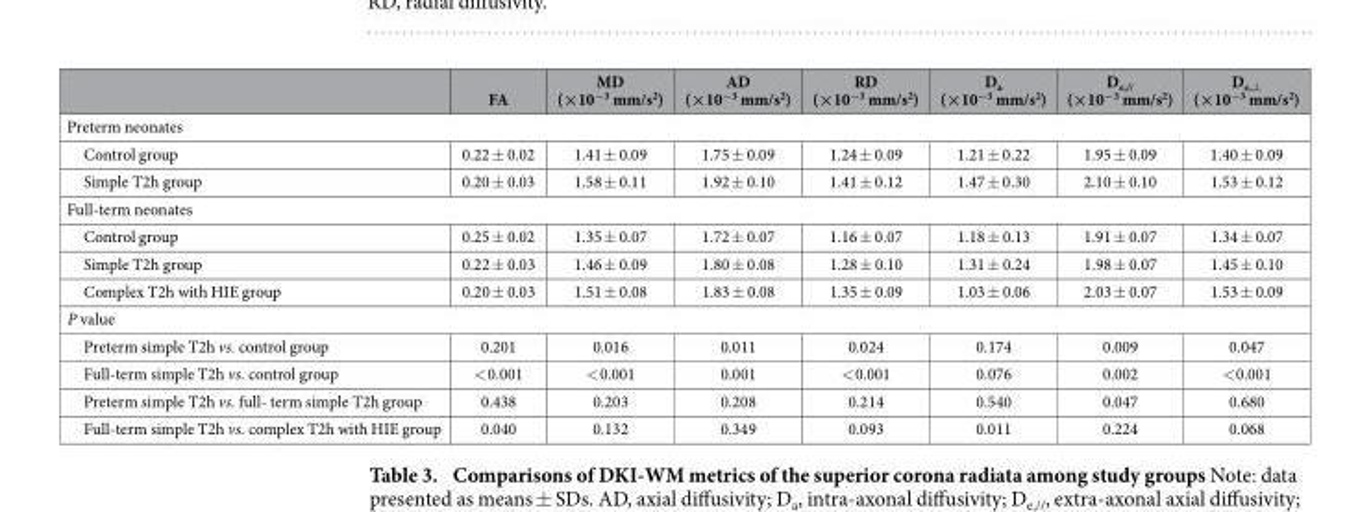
<table><thead><tr><td></td><td>FA</td><td>MD (×10<sup>−3</sup> mm/s<sup>2</sup>)</td><td>AD (×10<sup>−3</sup> mm/s<sup>2</sup>)</td><td>RD (×10<sup>−3</sup> mm/s<sup>2</sup>)</td><td>D<sub>a</sub> (×10<sup>−3</sup> mm/s<sup>2</sup>)</td><td>D<sub>e,//</sub> (×10<sup>−3</sup> mm/s<sup>2</sup>)</td><td>D<sub>e,⊥</sub> (×10<sup>−3</sup> mm/s<sup>2</sup>)</td></tr></thead><tbody><tr><td colspan="8">Preterm neonates</td></tr><tr><td>Control group</td><td>0.22 ± 0.02</td><td>1.41 ± 0.09</td><td>1.75 ± 0.09</td><td>1.24 ± 0.09</td><td>1.21 ± 0.22</td><td>1.95 ± 0.09</td><td>1.40 ± 0.09</td></tr><tr><td>Simple T2h group</td><td>0.20 ± 0.03</td><td>1.58 ± 0.11</td><td>1.92 ± 0.10</td><td>1.41 ± 0.12</td><td>1.47 ± 0.30</td><td>2.10 ± 0.10</td><td>1.53 ± 0.12</td></tr><tr><td colspan="8">Full-term neonates</td></tr><tr><td>Control group</td><td>0.25 ± 0.02</td><td>1.35 ± 0.07</td><td>1.72 ± 0.07</td><td>1.16 ± 0.07</td><td>1.18 ± 0.13</td><td>1.91 ± 0.07</td><td>1.34 ± 0.07</td></tr><tr><td>Simple T2h group</td><td>0.22 ± 0.03</td><td>1.46 ± 0.09</td><td>1.80 ± 0.08</td><td>1.28 ± 0.10</td><td>1.31 ± 0.24</td><td>1.98 ± 0.07</td><td>1.45 ± 0.10</td></tr><tr><td>Complex T2h with HIE group</td><td>0.20 ± 0.03</td><td>1.51 ± 0.08</td><td>1.83 ± 0.08</td><td>1.35 ± 0.09</td><td>1.03 ± 0.06</td><td>2.03 ± 0.07</td><td>1.53 ± 0.09</td></tr><tr><td colspan="8">P value</td></tr><tr><td>Preterm simple T2h vs. control group</td><td>0.201</td><td>0.016</td><td>0.011</td><td>0.024</td><td>0.174</td><td>0.009</td><td>0.047</td></tr><tr><td>Full-term simple T2h vs. control group</td><td>&lt; 0.001</td><td>&lt; 0.001</td><td>0.001</td><td>&lt; 0.001</td><td>0.076</td><td>0.002</td><td>&lt; 0.001</td></tr><tr><td>Preterm simple T2h vs. full- term simple T2h group</td><td>0.438</td><td>0.203</td><td>0.208</td><td>0.214</td><td>0.540</td><td>0.047</td><td>0.680</td></tr><tr><td>Full-term simple T2h vs. complex T2h with HIE group</td><td>0.040</td><td>0.132</td><td>0.349</td><td>0.093</td><td>0.011</td><td>0.224</td><td>0.068</td></tr></tbody></table>